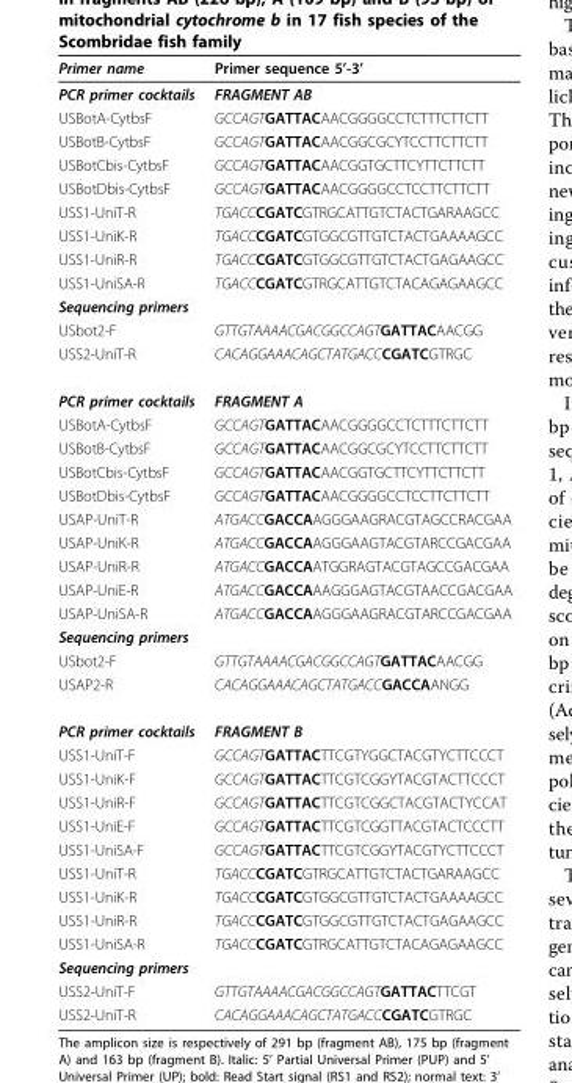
<table><thead><tr><td>Primer name</td><td>Primer sequence 5’-3’</td></tr></thead><tbody><tr><td>PCR primer cocktails</td><td>FRAGMENT AB</td></tr><tr><td>USBotA-CytbsF</td><td>GCCAGTGATTACAACGGGGCCTCTTTCTTCTT</td></tr><tr><td>USBotB-CytbsF</td><td>GCCAGTGATTACAACGGCGCYTCCTTCTTCTT</td></tr><tr><td>USBotCbis-CytbsF</td><td>GCCAGTGATTACAACGGTGCTTCYTTCTTCTT</td></tr><tr><td>USBotDbis-CytbsF</td><td>GCCAGTGATTACAACGGGGCCTCCTTCTTCTT</td></tr><tr><td>USS1-UniT-R</td><td>TGACCCGATCGTRGCATTGTCTACTGARAAGCC</td></tr><tr><td>USS1-UniK-R</td><td>TGACCCGATCGTGGCGTTGTCTACTGAAAAGCC</td></tr><tr><td>USS1-UniR-R</td><td>TGACCCGATCGTGGCGTTGTCTACTGAGAAGCC</td></tr><tr><td>USS1-UniSA-R</td><td>TGACCCGATCGTRGCATTGTCTACAGAGAAGCC</td></tr><tr><td colspan="2">Sequencing primers</td></tr><tr><td>USbot2-F</td><td>GTTGTAAAACGACGGCCAGTGATTACAACGG</td></tr><tr><td>USS2-UniT-R</td><td>CACAGGAAACAGCTATGACCCGATCGTRGC</td></tr><tr><td>PCR primer cocktails</td><td>FRAGMENT A</td></tr><tr><td>USBotA-CytbsF</td><td>GCCAGTGATTACAACGGGGCCTCTTTCTTCTT</td></tr><tr><td>USBotB-CytbsF</td><td>GCCAGTGATTACAACGGCGCYTCCTTCTTCTT</td></tr><tr><td>USBotCbis-CytbsF</td><td>GCCAGTGATTACAACGGTGCTTCYTTCTTCTT</td></tr><tr><td>USBotDbis-CytbsF</td><td>GCCAGTGATTACAACGGGGCCTCCTTCTTCTT</td></tr><tr><td>USAP-UniT-R</td><td>ATGACCGACCAAGGGAAGRACGTAGCCRACGAA</td></tr><tr><td>USAP-UniK-R</td><td>ATGACCGACCAAGGGAAGTACGTARCCGACGAA</td></tr><tr><td>USAP-UniR-R</td><td>ATGACCGACCAATGGRAGTACGTAGCCGACGAA</td></tr><tr><td>USAP-UniE-R</td><td>ATGACCGACCAAAGGGAGTACGTAACCGACGAA</td></tr><tr><td>USAP-UniSA-R</td><td>ATGACCGACCAAGGGAAGRACGTARCCGACGAA</td></tr><tr><td colspan="2">Sequencing primers</td></tr><tr><td>USbot2-F</td><td>GTTGTAAAACGACGGCCAGTGATTACAACGG</td></tr><tr><td>USAP2-R</td><td>CACAGGAAACAGCTATGACCGACCAANGG</td></tr><tr><td>PCR primer cocktails</td><td>FRAGMENT B</td></tr><tr><td>USS1-UniT-F</td><td>GCCAGTGATTACTTCGTYGGCTACGTYCTTCCCT</td></tr><tr><td>USS1-UniK-F</td><td>GCCAGTGATTACTTCGTCGGYTACGTACTTCCCT</td></tr><tr><td>USS1-UniR-F</td><td>GCCAGTGATTACTTCGTCGGCTACGTACTYCCAT</td></tr><tr><td>USS1-UniE-F</td><td>GCCAGTGATTACTTCGTCGGTTACGTACTCCCTT</td></tr><tr><td>USS1-UniSA-F</td><td>GCCAGTGATTACTTCGTCGGYTACGTYCTTCCCT</td></tr><tr><td>USS1-UniT-R</td><td>TGACCCGATCGTRGCATTGTCTACTGARAAGCC</td></tr><tr><td>USS1-UniK-R</td><td>TGACCCGATCGTGGCGTTGTCTACTGAAAAGCC</td></tr><tr><td>USS1-UniR-R</td><td>TGACCCGATCGTGGCGTTGTCTACTGAGAAGCC</td></tr><tr><td>USS1-UniSA-R</td><td>TGACCCGATCGTRGCATTGTCTACAGAGAAGCC</td></tr><tr><td colspan="2">Sequencing primers</td></tr><tr><td>USS2-UniT-F</td><td>GTTGTAAAACGACGGCCAGTGATTACTTCGT</td></tr><tr><td>USS2-UniT-R</td><td>CACAGGAAACAGCTATGACCCGATCGTRGC</td></tr></tbody></table>